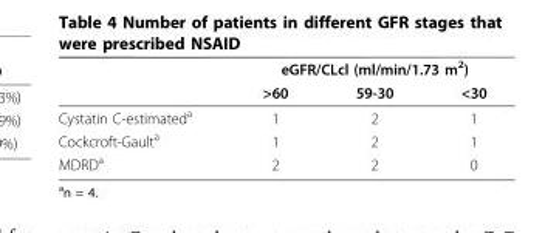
<table><thead><tr><td rowspan="2"></td><td colspan="3">eGFR/CLcl (ml/min/1.73 m<sup>2</sup>)</td></tr><tr><td>&gt;60</td><td>59-30</td><td>&lt;30</td></tr></thead><tbody><tr><td>Cystatin C-estimated<sup>a</sup></td><td>1</td><td>2</td><td>1</td></tr><tr><td>Cockcroft-Gault<sup>a</sup></td><td>1</td><td>2</td><td>1</td></tr><tr><td>MDRD<sup>a</sup></td><td>2</td><td>2</td><td>0</td></tr></tbody></table>